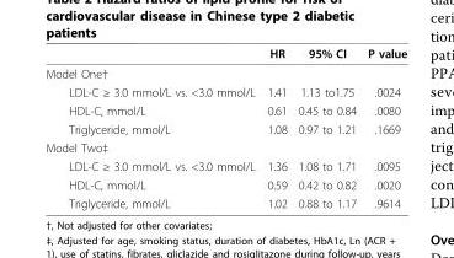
<table><thead><tr><td></td><td>HR</td><td>95% CI</td><td>P value</td></tr></thead><tbody><tr><td colspan="4">Model One†</td></tr><tr><td>LDL-C ≥ 3.0 mmol/L vs. &lt;3.0 mmol/L</td><td>1.41</td><td>1.13 to1.75</td><td>.0024</td></tr><tr><td>HDL-C, mmol/L</td><td>0.61</td><td>0.45 to 0.84</td><td>.0080</td></tr><tr><td>Triglyceride, mmol/L</td><td>1.08</td><td>0.97 to 1.21</td><td>.1669</td></tr><tr><td colspan="4">Model Two‡</td></tr><tr><td>LDL-C ≥ 3.0 mmol/L vs. &lt;3.0 mmol/L</td><td>1.36</td><td>1.08 to 1.71</td><td>.0095</td></tr><tr><td>HDL-C, mmol/L</td><td>0.59</td><td>0.42 to 0.82</td><td>.0020</td></tr><tr><td>Triglyceride, mmol/L</td><td>1.02</td><td>0.88 to 1.17</td><td>.9614</td></tr></tbody></table>